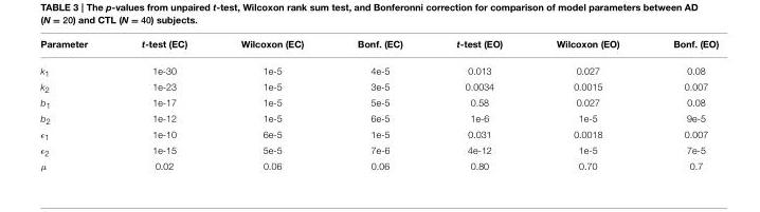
<table><thead><tr><td>Parameter</td><td>t-test (EC)</td><td>Wilcoxon (EC)</td><td>Bonf. (EC)</td><td>t-test (EO)</td><td>Wilcoxon (EO)</td><td>Bonf. (EO)</td></tr></thead><tbody><tr><td>k<sub>1</sub></td><td>1e-30</td><td>1e-5</td><td>4e-5</td><td>0.013</td><td>0.027</td><td>0.08</td></tr><tr><td>k<sub>2</sub></td><td>1e-23</td><td>1e-5</td><td>3e-5</td><td>0.0034</td><td>0.0015</td><td>0.007</td></tr><tr><td>b<sub>1</sub></td><td>1e-17</td><td>1e-5</td><td>5e-5</td><td>0.58</td><td>0.027</td><td>0.08</td></tr><tr><td>b<sub>2</sub></td><td>1e-12</td><td>1e-5</td><td>6e-5</td><td>1e-6</td><td>1e-5</td><td>9e-5</td></tr><tr><td>ǫ1</td><td>1e-10</td><td>6e-5</td><td>1e-5</td><td>0.031</td><td>0.0018</td><td>0.007</td></tr><tr><td>ǫ2</td><td>1e-15</td><td>5e-5</td><td>7e-6</td><td>4e-12</td><td>1e-5</td><td>7e-5</td></tr><tr><td>µ</td><td>0.02</td><td>0.06</td><td>0.06</td><td>0.80</td><td>0.70</td><td>0.7</td></tr></tbody></table>